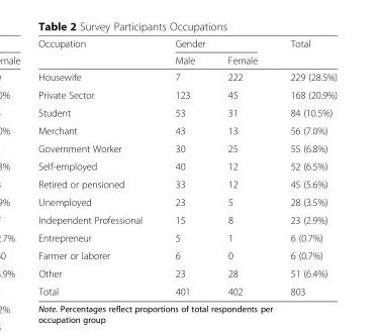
<table><thead><tr><td rowspan="2">Occupation</td><td colspan="2">Gender</td><td rowspan="2">Total</td></tr><tr><td>Male</td><td>Female</td></tr></thead><tbody><tr><td>Housewife</td><td>7</td><td>222</td><td>229 (28.5%)</td></tr><tr><td>Private Sector</td><td>123</td><td>45</td><td>168 (20.9%)</td></tr><tr><td>Student</td><td>53</td><td>31</td><td>84 (10.5%)</td></tr><tr><td>Merchant</td><td>43</td><td>13</td><td>56 (7.0%)</td></tr><tr><td>Government Worker</td><td>30</td><td>25</td><td>55 (6.8%)</td></tr><tr><td>Self-employed</td><td>40</td><td>12</td><td>52 (6.5%)</td></tr><tr><td>Retired or pensioned</td><td>33</td><td>12</td><td>45 (5.6%)</td></tr><tr><td>Unemployed</td><td>23</td><td>5</td><td>28 (3.5%)</td></tr><tr><td>Independent Professional</td><td>15</td><td>8</td><td>23 (2.9%)</td></tr><tr><td>Entrepreneur</td><td>5</td><td>1</td><td>6 (0.7%)</td></tr><tr><td>Farmer or laborer</td><td>6</td><td>0</td><td>6 (0.7%)</td></tr><tr><td>Other</td><td>23</td><td>28</td><td>51 (6.4%)</td></tr><tr><td>Total</td><td>401</td><td>402</td><td>803</td></tr></tbody></table>